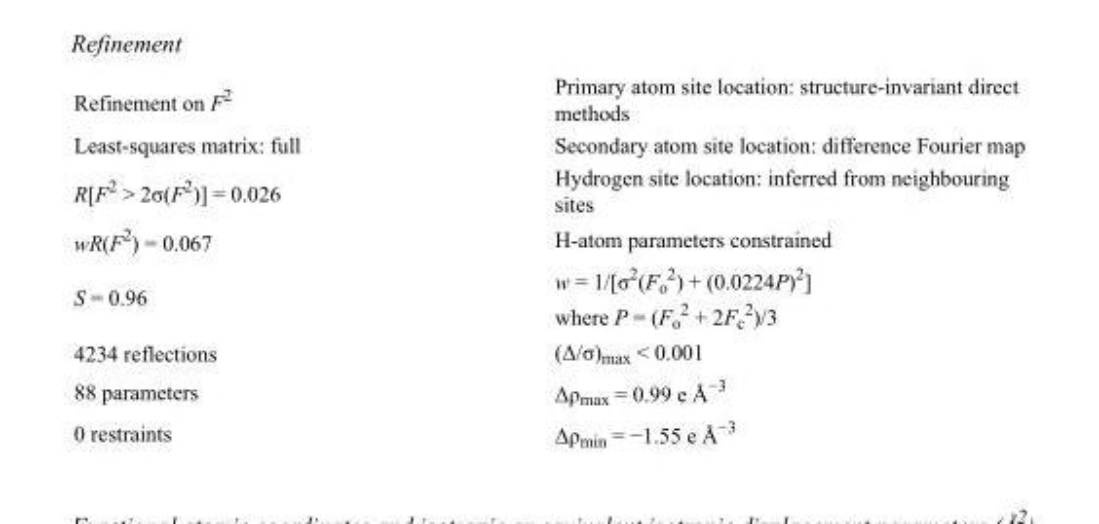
<table><tbody><tr><td>Refinement on F<sup>2</sup></td><td>Primary atom site location: structure-invariant direct methods</td></tr><tr><td>Least-squares matrix: full</td><td>Secondary atom site location: difference Fourier map</td></tr><tr><td>R[F<sup>2</sup> &gt; 2σ(F<sup>2</sup>)] = 0.026</td><td>Hydrogen site location: inferred from neighbouring sites</td></tr><tr><td>wR(F<sup>2</sup>) = 0.067</td><td>H-atom parameters constrained</td></tr><tr><td>S = 0.96</td><td>w = 1/[σ<sup>2</sup>(F<sub>o</sub> <sup>2</sup>) + (0.0224P)<sup>2</sup>] where P = (F<sub>o</sub> <sup>2</sup> + 2F<sub>c</sub> <sup>2</sup>)/3</td></tr><tr><td>4234 reflections</td><td>(Δ/σ)<sub>max</sub> &lt; 0.001</td></tr><tr><td>88 parameters</td><td>Δρ<sub>max</sub> = 0.99 e Å<sup>−3</sup></td></tr><tr><td>0 restraints</td><td>Δρ<sub>min</sub> = −1.55 e Å<sup>−3</sup></td></tr></tbody></table>